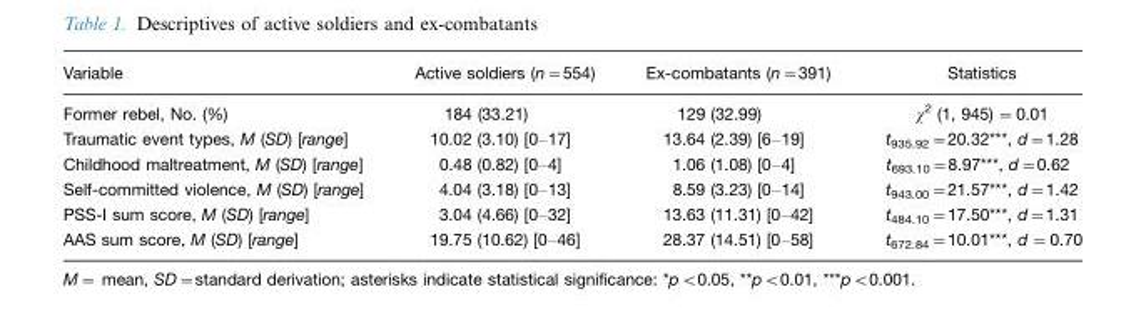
<table><thead><tr><td>Variable</td><td>Active soldiers (n=554)</td><td>Ex-combatants (n=391)</td><td>Statistics</td></tr></thead><tbody><tr><td>Former rebel, No. (%)</td><td>184 (33.21)</td><td>129 (32.99)</td><td>χ<sup>2</sup> (1, 945) =0.01</td></tr><tr><td>Traumatic event types, M (SD) [range]</td><td>10.02 (3.10) [0–17]</td><td>13.64 (2.39) [6–19]</td><td>t<sub>935.92</sub>=20.32***, d=1.28</td></tr><tr><td>Childhood maltreatment, M (SD) [range]</td><td>0.48 (0.82) [0–4]</td><td>1.06 (1.08) [0–4]</td><td>t<sub>693.10</sub>=8.97***, d=0.62</td></tr><tr><td>Self-committed violence, M (SD) [range]</td><td>4.04 (3.18) [0–13]</td><td>8.59 (3.23) [0–14]</td><td>t<sub>943.00</sub>=21.57***, d=1.42</td></tr><tr><td>PSS-I sum score, M (SD) [range]</td><td>3.04 (4.66) [0–32]</td><td>13.63 (11.31) [0–42]</td><td>t<sub>484.10</sub>=17.50***, d=1.31</td></tr><tr><td>AAS sum score, M (SD) [range]</td><td>19.75 (10.62) [0–46]</td><td>28.37 (14.51) [0–58]</td><td>t<sub>672.84</sub>=10.01***, d =0.70</td></tr></tbody></table>